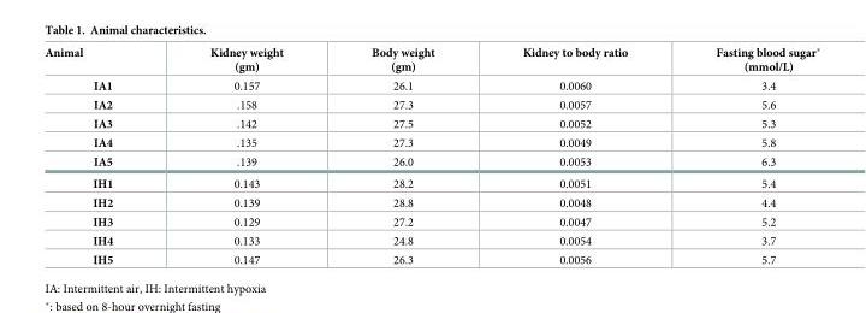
<table><thead><tr><td>Animal</td><td>Kidney weight (gm)</td><td>Body weight (gm)</td><td>Kidney to body ratio</td><td>Fasting blood sugar* (mmol/L)</td></tr></thead><tbody><tr><td>IA1</td><td>0.157</td><td>26.1</td><td>0.0060</td><td>3.4</td></tr><tr><td>IA2</td><td>.158</td><td>27.3</td><td>0.0057</td><td>5.6</td></tr><tr><td>IA3</td><td>.142</td><td>27.5</td><td>0.0052</td><td>5.3</td></tr><tr><td>IA4</td><td>.135</td><td>27.3</td><td>0.0049</td><td>5.8</td></tr><tr><td>IA5</td><td>.139</td><td>26.0</td><td>0.0053</td><td>6.3</td></tr><tr><td>IH1</td><td>0.143</td><td>28.2</td><td>0.0051</td><td>5.4</td></tr><tr><td>IH2</td><td>0.139</td><td>28.8</td><td>0.0048</td><td>4.4</td></tr><tr><td>IH3</td><td>0.129</td><td>27.2</td><td>0.0047</td><td>5.2</td></tr><tr><td>IH4</td><td>0.133</td><td>24.8</td><td>0.0054</td><td>3.7</td></tr><tr><td>IH5</td><td>0.147</td><td>26.3</td><td>0.0056</td><td>5.7</td></tr></tbody></table>